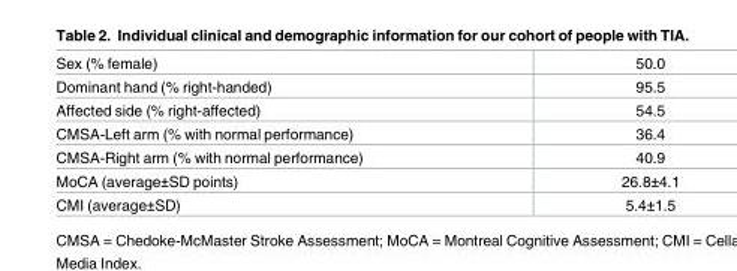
<table><tbody><tr><td>Sex (% female)</td><td>50.0</td></tr><tr><td>Dominant hand (% right-handed)</td><td>95.5</td></tr><tr><td>Affected side (% right-affected)</td><td>54.5</td></tr><tr><td>CMSA-Left arm (% with normal performance)</td><td>36.4</td></tr><tr><td>CMSA-Right arm (% with normal performance)</td><td>40.9</td></tr><tr><td>MoCA (average±SD points)</td><td>26.8±4.1</td></tr><tr><td>CMI (average±SD)</td><td>5.4±1.5</td></tr></tbody></table>